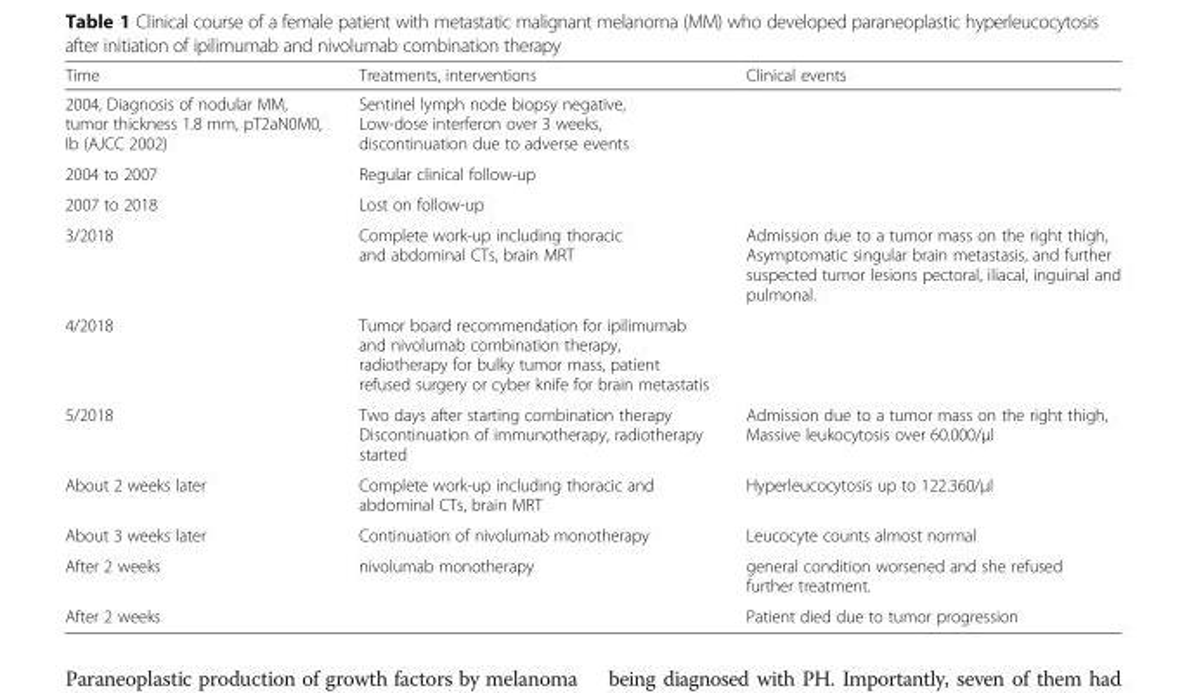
<table><thead><tr><td>Time</td><td>Treatments, interventions</td><td>Clinical events</td></tr></thead><tbody><tr><td>2004, Diagnosis of nodular MM, tumor thickness 1.8 mm, pT2aN0M0, Ib (AJCC 2002)</td><td>Sentinel lymph node biopsy negative, Low-dose interferon over 3 weeks, discontinuation due to adverse events</td><td></td></tr><tr><td>2004 to 2007</td><td>Regular clinical follow-up</td><td></td></tr><tr><td>2007 to 2018</td><td>Lost on follow-up</td><td></td></tr><tr><td>3/2018</td><td>Complete work-up including thoracic and abdominal CTs, brain MRT</td><td>Admission due to a tumor mass on the right thigh, Asymptomatic singular brain metastasis, and further suspected tumor lesions pectoral, iliacal, inguinal and pulmonal.</td></tr><tr><td>4/2018</td><td>Tumor board recommendation for ipilimumab and nivolumab combination therapy, radiotherapy for bulky tumor mass, patient refused surgery or cyber knife for brain metastatis</td><td></td></tr><tr><td>5/2018</td><td>Two days after starting combination therapy Discontinuation of immunotherapy, radiotherapy started</td><td>Admission due to a tumor mass on the right thigh, Massive leukocytosis over 60.000/μl</td></tr><tr><td>About 2 weeks later</td><td>Complete work-up including thoracic and abdominal CTs, brain MRT</td><td>Hyperleucocytosis up to 122.360/μl</td></tr><tr><td>About 3 weeks later</td><td>Continuation of nivolumab monotherapy</td><td>Leucocyte counts almost normal</td></tr><tr><td>After 2 weeks</td><td>nivolumab monotherapy</td><td>general condition worsened and she refused further treatment.</td></tr><tr><td>After 2 weeks</td><td></td><td>Patient died due to tumor progression</td></tr></tbody></table>